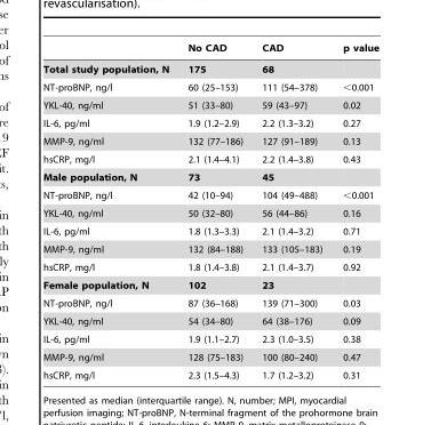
<table><thead><tr><td></td><td>No CAD</td><td>CAD</td><td>p value</td></tr></thead><tbody><tr><td>Total study population, N</td><td>175</td><td>68</td><td></td></tr><tr><td>NT-proBNP, ng/l</td><td>60 (25–153)</td><td>111 (54–378)</td><td>&lt;0.001</td></tr><tr><td>YKL-40, ng/ml</td><td>51 (33–80)</td><td>59 (43–97)</td><td>0.02</td></tr><tr><td>IL-6, pg/ml</td><td>1.9 (1.2–2.9)</td><td>2.2 (1.3–3.2)</td><td>0.27</td></tr><tr><td>MMP-9, ng/ml</td><td>132 (77–186)</td><td>127 (91–189)</td><td>0.13</td></tr><tr><td>hsCRP, mg/l</td><td>2.1 (1.4–4.1)</td><td>2.2 (1.4–3.8)</td><td>0.43</td></tr><tr><td>Male population, N</td><td>73</td><td>45</td><td></td></tr><tr><td>NT-proBNP, ng/l</td><td>42 (10–94)</td><td>104 (49–488)</td><td>&lt;0.001</td></tr><tr><td>YKL-40, ng/ml</td><td>50 (32–80)</td><td>56 (44–86)</td><td>0.16</td></tr><tr><td>IL-6, pg/ml</td><td>1.8 (1.3–3.3)</td><td>2.1 (1.4–3.2)</td><td>0.71</td></tr><tr><td>MMP-9, ng/ml</td><td>132 (84–188)</td><td>133 (105–183)</td><td>0.19</td></tr><tr><td>hsCRP, mg/l</td><td>1.8 (1.4–3.8)</td><td>2.1 (1.4–3.7)</td><td>0.92</td></tr><tr><td>Female population, N</td><td>102</td><td>23</td><td></td></tr><tr><td>NT-proBNP, ng/l</td><td>87 (36–168)</td><td>139 (71–300)</td><td>0.03</td></tr><tr><td>YKL-40, ng/ml</td><td>54 (34–80)</td><td>64 (38–176)</td><td>0.09</td></tr><tr><td>IL-6, pg/ml</td><td>1.9 (1.1–2.7)</td><td>2.3 (1.0–3.5)</td><td>0.38</td></tr><tr><td>MMP-9, ng/ml</td><td>128 (75–183)</td><td>100 (80–240)</td><td>0.47</td></tr><tr><td>hsCRP, mg/l</td><td>2.3 (1.5–4.3)</td><td>1.7 (1.2–3.2)</td><td>0.31</td></tr></tbody></table>